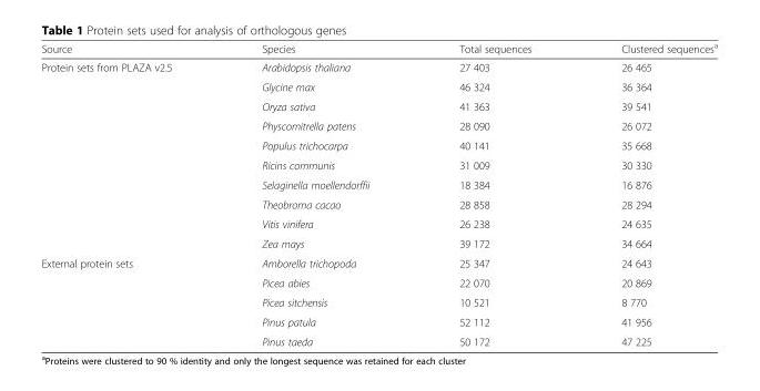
<table><thead><tr><td>Source</td><td>Species</td><td>Total sequences</td><td>Clustered sequences<sup>a</sup></td></tr></thead><tbody><tr><td rowspan="10">Protein sets from PLAZA v2.5</td><td>Arabidopsis thaliana</td><td>27 403</td><td>26 465</td></tr><tr><td>Glycine max</td><td>46 324</td><td>36 364</td></tr><tr><td>Oryza sativa</td><td>41 363</td><td>39 541</td></tr><tr><td>Physcomitrella patens</td><td>28 090</td><td>26 072</td></tr><tr><td>Populus trichocarpa</td><td>40 141</td><td>35 668</td></tr><tr><td>Ricins communis</td><td>31 009</td><td>30 330</td></tr><tr><td>Selaginella moellendorffii</td><td>18 384</td><td>16 876</td></tr><tr><td>Theobroma cacao</td><td>28 858</td><td>28 294</td></tr><tr><td>Vitis vinifera</td><td>26 238</td><td>24 635</td></tr><tr><td>Zea mays</td><td>39 172</td><td>34 664</td></tr><tr><td rowspan="5">External protein sets</td><td>Amborella trichopoda</td><td>25 347</td><td>24 643</td></tr><tr><td>Picea abies</td><td>22 070</td><td>20 869</td></tr><tr><td>Picea sitchensis</td><td>10 521</td><td>8 770</td></tr><tr><td>Pinus patula</td><td>52 112</td><td>41 956</td></tr><tr><td>Pinus taeda</td><td>50 172</td><td>47 225</td></tr></tbody></table>